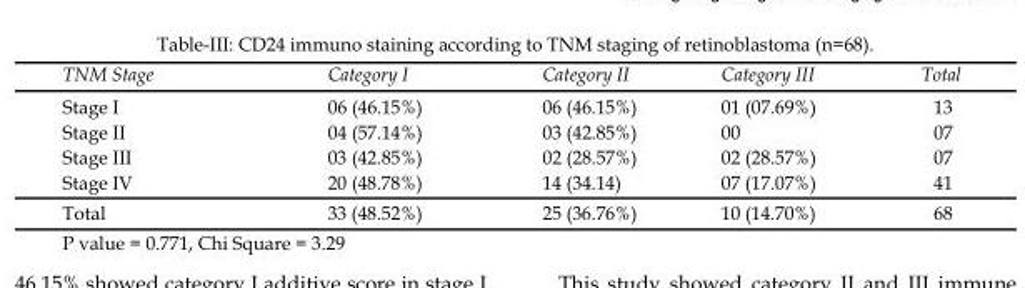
<table><thead><tr><td>TNM Stage</td><td>Category I</td><td>Category II</td><td>Category III</td><td>Total</td></tr></thead><tbody><tr><td>Stage I</td><td>06 (46.15%)</td><td>06 (46.15%)</td><td>01 (07.69%)</td><td>13</td></tr><tr><td>Stage II</td><td>04 (57.14%)</td><td>03 (42.85%)</td><td>00</td><td>07</td></tr><tr><td>Stage III</td><td>03 (42.85%)</td><td>02 (28.57%)</td><td>02 (28.57%)</td><td>07</td></tr><tr><td>Stage IV</td><td>20 (48.78%)</td><td>14 (34.14)</td><td>07 (17.07%)</td><td>41</td></tr><tr><td>Total</td><td>33 (48.52%)</td><td>25 (36.76%)</td><td>10 (14.70%)</td><td>68</td></tr></tbody></table>